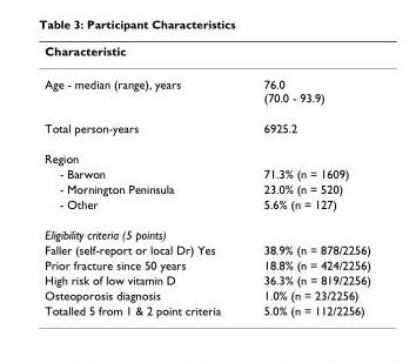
<table><thead><tr><td>Characteristic</td><td></td></tr></thead><tbody><tr><td>Age - median (range), years</td><td>76.0 (70.0 - 93.9)</td></tr><tr><td>Total person-years</td><td>6925.2</td></tr><tr><td colspan="2">Region</td></tr><tr><td>- Barwon</td><td>71.3% (n = 1609)</td></tr><tr><td>- Mornington Peninsula</td><td>23.0% (n = 520)</td></tr><tr><td>- Other</td><td>5.6% (n = 127)</td></tr><tr><td colspan="2">Eligibility criteria (5 points)</td></tr><tr><td>Faller (self-report or local Dr) Yes</td><td>38.9% (n = 878/2256)</td></tr><tr><td>Prior fracture since 50 years</td><td>18.8% (n = 424/2256)</td></tr><tr><td>High risk of low vitamin D</td><td>36.3% (n = 819/2256)</td></tr><tr><td>Osteoporosis diagnosis</td><td>1.0% (n = 23/2256)</td></tr><tr><td>Totalled 5 from 1 &amp; 2 point criteria</td><td>5.0% (n = 112/2256)</td></tr></tbody></table>